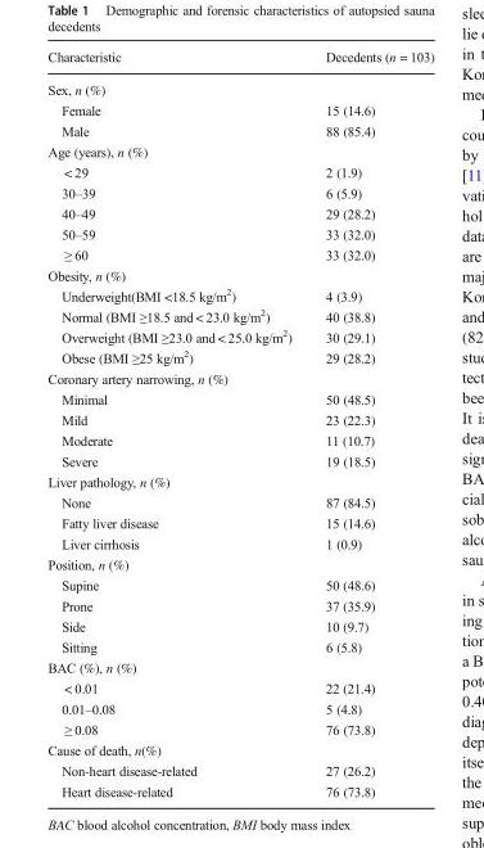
<table><thead><tr><td>Characteristic</td><td>Decedents (n = 103)</td></tr></thead><tbody><tr><td colspan="2">Sex, n (%)</td></tr><tr><td>Female</td><td>15 (14.6)</td></tr><tr><td>Male</td><td>88 (85.4)</td></tr><tr><td colspan="2">Age (years), n (%)</td></tr><tr><td>&lt; 29</td><td>2 (1.9)</td></tr><tr><td>30–39</td><td>6 (5.9)</td></tr><tr><td>40–49</td><td>29 (28.2)</td></tr><tr><td>50–59</td><td>33 (32.0)</td></tr><tr><td>≥ 60</td><td>33 (32.0)</td></tr><tr><td colspan="2">Obesity, n (%)</td></tr><tr><td>Underweight(BMI &lt;18.5 kg/m<sup>2</sup>)</td><td>4 (3.9)</td></tr><tr><td>Normal (BMI ≥18.5 and &lt; 23.0 kg/m<sup>2</sup>)</td><td>40 (38.8)</td></tr><tr><td>Overweight (BMI ≥23.0 and &lt; 25.0 kg/m<sup>2</sup>)</td><td>30 (29.1)</td></tr><tr><td>Obese (BMI ≥25 kg/m<sup>2</sup>)</td><td>29 (28.2)</td></tr><tr><td colspan="2">Coronary artery narrowing, n (%)</td></tr><tr><td>Minimal</td><td>50 (48.5)</td></tr><tr><td>Mild</td><td>23 (22.3)</td></tr><tr><td>Moderate</td><td>11 (10.7)</td></tr><tr><td>Severe</td><td>19 (18.5)</td></tr><tr><td colspan="2">Liver pathology, n (%)</td></tr><tr><td>None</td><td>87 (84.5)</td></tr><tr><td>Fatty liver disease</td><td>15 (14.6)</td></tr><tr><td>Liver cirrhosis</td><td>1 (0.9)</td></tr><tr><td colspan="2">Position, n (%)</td></tr><tr><td>Supine</td><td>50 (48.6)</td></tr><tr><td>Prone</td><td>37 (35.9)</td></tr><tr><td>Side</td><td>10 (9.7)</td></tr><tr><td>Sitting</td><td>6 (5.8)</td></tr><tr><td colspan="2">BAC (%), n (%)</td></tr><tr><td>&lt; 0.01</td><td>22 (21.4)</td></tr><tr><td>0.01–0.08</td><td>5 (4.8)</td></tr><tr><td>≥ 0.08</td><td>76 (73.8)</td></tr><tr><td colspan="2">Cause of death, n(%)</td></tr><tr><td>Non-heart disease-related</td><td>27 (26.2)</td></tr><tr><td>Heart disease-related</td><td>76 (73.8)</td></tr></tbody></table>